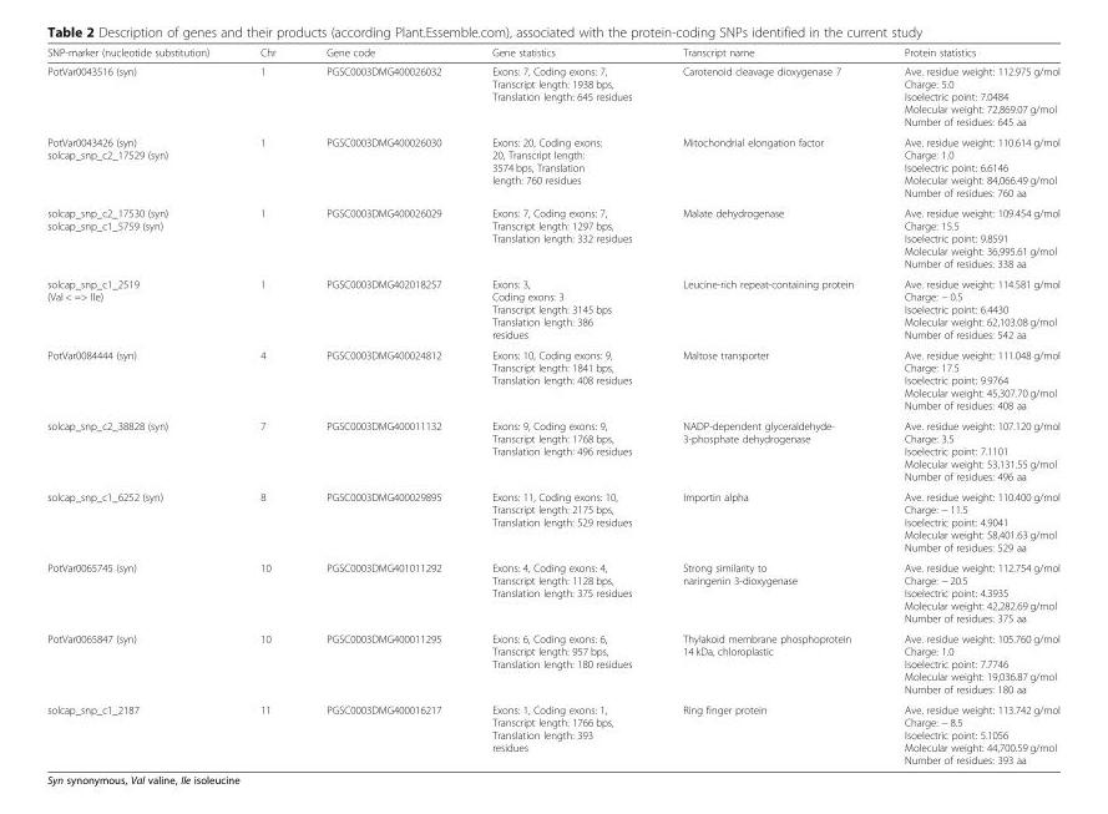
<table><thead><tr><td>SNP-marker (nucleotide substitution)</td><td>Chr</td><td>Gene code</td><td>Gene statistics</td><td>Transcript name</td><td>Protein statistics</td></tr></thead><tbody><tr><td>PotVar0043516 (syn)</td><td>1</td><td>PGSC0003DMG400026032</td><td>Exons: 7, Coding exons: 7, Transcript length: 1938 bps, Translation length: 645 residues</td><td>Carotenoid cleavage dioxygenase 7</td><td>Ave. residue weight: 112.975 g/mol Charge: 5.0 Isoelectric point: 7.0484 Molecular weight: 72,869.07 g/mol Number of residues: 645 aa</td></tr><tr><td>PotVar0043426 (syn) solcap_snp_c2_17529 (syn)</td><td>1</td><td>PGSC0003DMG400026030</td><td>Exons: 20, Coding exons: 20, Transcript length: 3574 bps, Translation length: 760 residues</td><td>Mitochondrial elongation factor</td><td>Ave. residue weight: 110.614 g/mol Charge: 1.0 Isoelectric point: 6.6146 Molecular weight: 84,066.49 g/mol Number of residues: 760 aa</td></tr><tr><td>solcap_snp_c2_17530 (syn) solcap_snp_c1_5759 (syn)</td><td>1</td><td>PGSC0003DMG400026029</td><td>Exons: 7, Coding exons: 7, Transcript length: 1297 bps, Translation length: 332 residues</td><td>Malate dehydrogenase</td><td>Ave. residue weight: 109.454 g/mol Charge: 15.5 Isoelectric point: 9.8591 Molecular weight: 36,995.61 g/mol Number of residues: 338 aa</td></tr><tr><td>solcap_snp_c1_2519 (Val &lt; =&gt; Ile)</td><td>1</td><td>PGSC0003DMG402018257</td><td>Exons: 3, Coding exons: 3 Transcript length: 3145 bps Translation length: 386 residues</td><td>Leucine-rich repeat-containing protein</td><td>Ave. residue weight: 114.581 g/mol Charge: − 0.5 Isoelectric point: 6.4430 Molecular weight: 62,103.08 g/mol Number of residues: 542 aa</td></tr><tr><td>PotVar0084444 (syn)</td><td>4</td><td>PGSC0003DMG400024812</td><td>Exons: 10, Coding exons: 9, Transcript length: 1841 bps, Translation length: 408 residues</td><td>Maltose transporter</td><td>Ave. residue weight: 111.048 g/mol Charge: 17.5 Isoelectric point: 9.9764 Molecular weight: 45,307.70 g/mol Number of residues: 408 aa</td></tr><tr><td>solcap_snp_c2_38828 (syn)</td><td>7</td><td>PGSC0003DMG400011132</td><td>Exons: 9, Coding exons: 9, Transcript length: 1768 bps, Translation length: 496 residues</td><td>NADP-dependent glyceraldehyde- 3-phosphate dehydrogenase</td><td>Ave. residue weight: 107.120 g/mol Charge: 3.5 Isoelectric point: 7.1101 Molecular weight: 53,131.55 g/mol Number of residues: 496 aa</td></tr><tr><td>solcap_snp_c1_6252 (syn)</td><td>8</td><td>PGSC0003DMG400029895</td><td>Exons: 11, Coding exons: 10, Transcript length: 2175 bps, Translation length: 529 residues</td><td>Importin alpha</td><td>Ave. residue weight: 110.400 g/mol Charge: − 11.5 Isoelectric point: 4.9041 Molecular weight: 58,401.63 g/mol Number of residues: 529 aa</td></tr><tr><td>PotVar0065745 (syn)</td><td>10</td><td>PGSC0003DMG401011292</td><td>Exons: 4, Coding exons: 4, Transcript length: 1128 bps, Translation length: 375 residues</td><td>Strong similarity to naringenin 3-dioxygenase</td><td>Ave. residue weight: 112.754 g/mol Charge: − 20.5 Isoelectric point: 4.3935 Molecular weight: 42,282.69 g/mol Number of residues: 375 aa</td></tr><tr><td>PotVar0065847 (syn)</td><td>10</td><td>PGSC0003DMG400011295</td><td>Exons: 6, Coding exons: 6, Transcript length: 957 bps, Translation length: 180 residues</td><td>Thylakoid membrane phosphoprotein 14 kDa, chloroplastic</td><td>Ave. residue weight: 105.760 g/mol Charge: 1.0 Isoelectric point: 7.7746 Molecular weight: 19,036.87 g/mol Number of residues: 180 aa</td></tr><tr><td>solcap_snp_c1_2187</td><td>11</td><td>PGSC0003DMG400016217</td><td>Exons: 1, Coding exons: 1, Transcript length: 1766 bps, Translation length: 393 residues</td><td>Ring finger protein</td><td>Ave. residue weight: 113.742 g/mol Charge: − 8.5 Isoelectric point: 5.1056 Molecular weight: 44,700.59 g/mol Number of residues: 393 aa</td></tr></tbody></table>